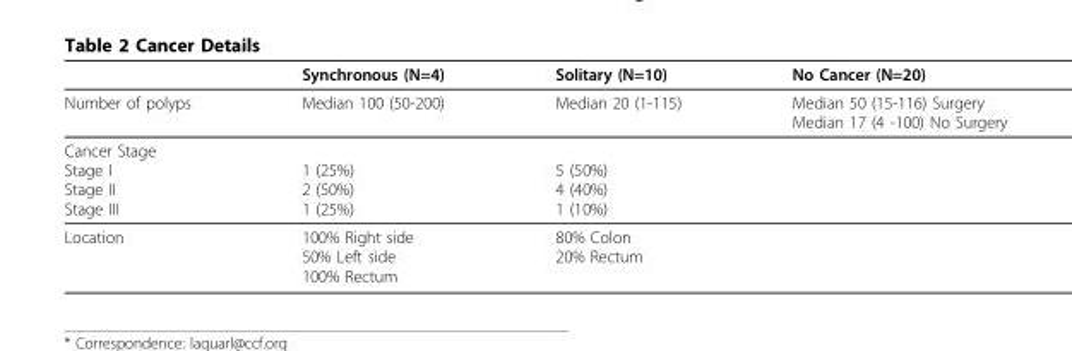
<table><thead><tr><td></td><td>Synchronous (N=4)</td><td>Solitary (N=10)</td><td>No Cancer (N=20)</td></tr></thead><tbody><tr><td>Number of polyps</td><td>Median 100 (50-200)</td><td>Median 20 (1-115)</td><td>Median 50 (15-116) Surgery Median 17 (4 -100) No Surgery</td></tr><tr><td>Cancer Stage Stage I Stage II Stage III</td><td>1 (25%) 2 (50%) 1 (25%)</td><td>5 (50%) 4 (40%) 1 (10%)</td><td></td></tr><tr><td>Location</td><td>100% Right side 50% Left side 100% Rectum</td><td>80% Colon 20% Rectum</td><td></td></tr></tbody></table>